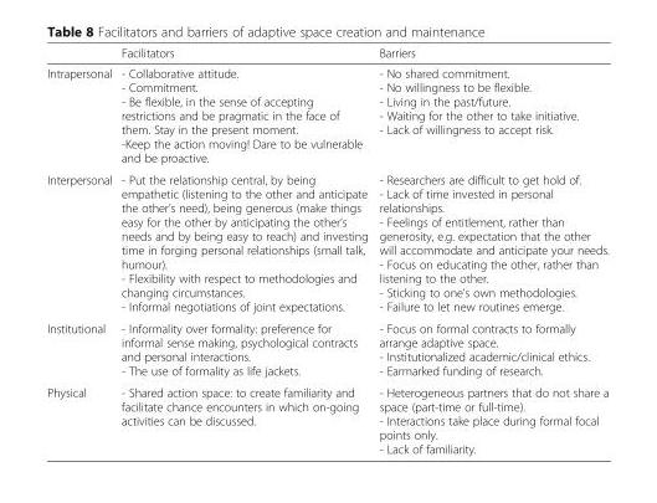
<table><thead><tr><td></td><td>Facilitators</td><td>Barriers</td></tr></thead><tbody><tr><td>Intrapersonal</td><td>- Collaborative attitude. - Commitment. - Be flexible, in the sense of accepting restrictions and be pragmatic in the face of them. Stay in the present moment. -Keep the action moving! Dare to be vulnerable and be proactive.</td><td>- No shared commitment. - No willingness to be flexible. - Living in the past/future. - Waiting for the other to take initiative. - Lack of willingness to accept risk.</td></tr><tr><td>Interpersonal</td><td>- Put the relationship central, by being empathetic (listening to the other and anticipate the other’s need), being generous (make things easy for the other by anticipating the other’s needs and by being easy to reach) and investing time in forging personal relationships (small talk, humour). - Flexibility with respect to methodologies and changing circumstances. - Informal negotiations of joint expectations.</td><td>- Researchers are difficult to get hold of. - Lack of time invested in personal relationships. - Feelings of entitlement, rather than generosity, e.g. expectation that the other will accommodate and anticipate your needs. - Focus on educating the other, rather than listening to the other. - Sticking to one’s own methodologies. - Failure to let new routines emerge.</td></tr><tr><td>Institutional</td><td>- Informality over formality: preference for informal sense making, psychological contracts and personal interactions. - The use of formality as life jackets.</td><td>- Focus on formal contracts to formally arrange adaptive space. - Institutionalized academic/clinical ethics. - Earmarked funding of research.</td></tr><tr><td>Physical</td><td>- Shared action space: to create familiarity and facilitate chance encounters in which on-going activities can be discussed.</td><td>- Heterogeneous partners that do not share a space (part-time or full-time). - Interactions take place during formal focal points only. - Lack of familiarity.</td></tr></tbody></table>